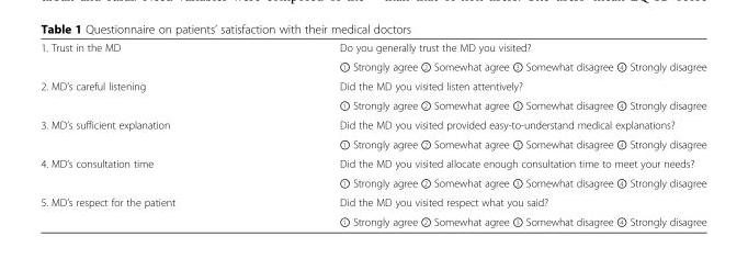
<table><tbody><tr><td rowspan="2">1. Trust in the MD</td><td>Do you generally trust the MD you visited?</td></tr><tr><td>① Strongly agree ② Somewhat agree ③ Somewhat disagree ④ Strongly disagree</td></tr><tr><td rowspan="2">2. MD’s careful listening</td><td>Did the MD you visited listen attentively?</td></tr><tr><td>① Strongly agree ② Somewhat agree ③ Somewhat disagree ④ Strongly disagree</td></tr><tr><td rowspan="2">3. MD’s sufficient explanation</td><td>Did the MD you visited provided easy-to-understand medical explanations?</td></tr><tr><td>① Strongly agree ② Somewhat agree ③ Somewhat disagree ④ Strongly disagree</td></tr><tr><td rowspan="2">4. MD’s consultation time</td><td>Did the MD you visited allocate enough consultation time to meet your needs?</td></tr><tr><td>① Strongly agree ② Somewhat agree ③ Somewhat disagree ④ Strongly disagree</td></tr><tr><td rowspan="2">5. MD’s respect for the patient</td><td>Did the MD you visited respect what you said?</td></tr><tr><td>① Strongly agree ② Somewhat agree ③ Somewhat disagree ④ Strongly disagree</td></tr></tbody></table>